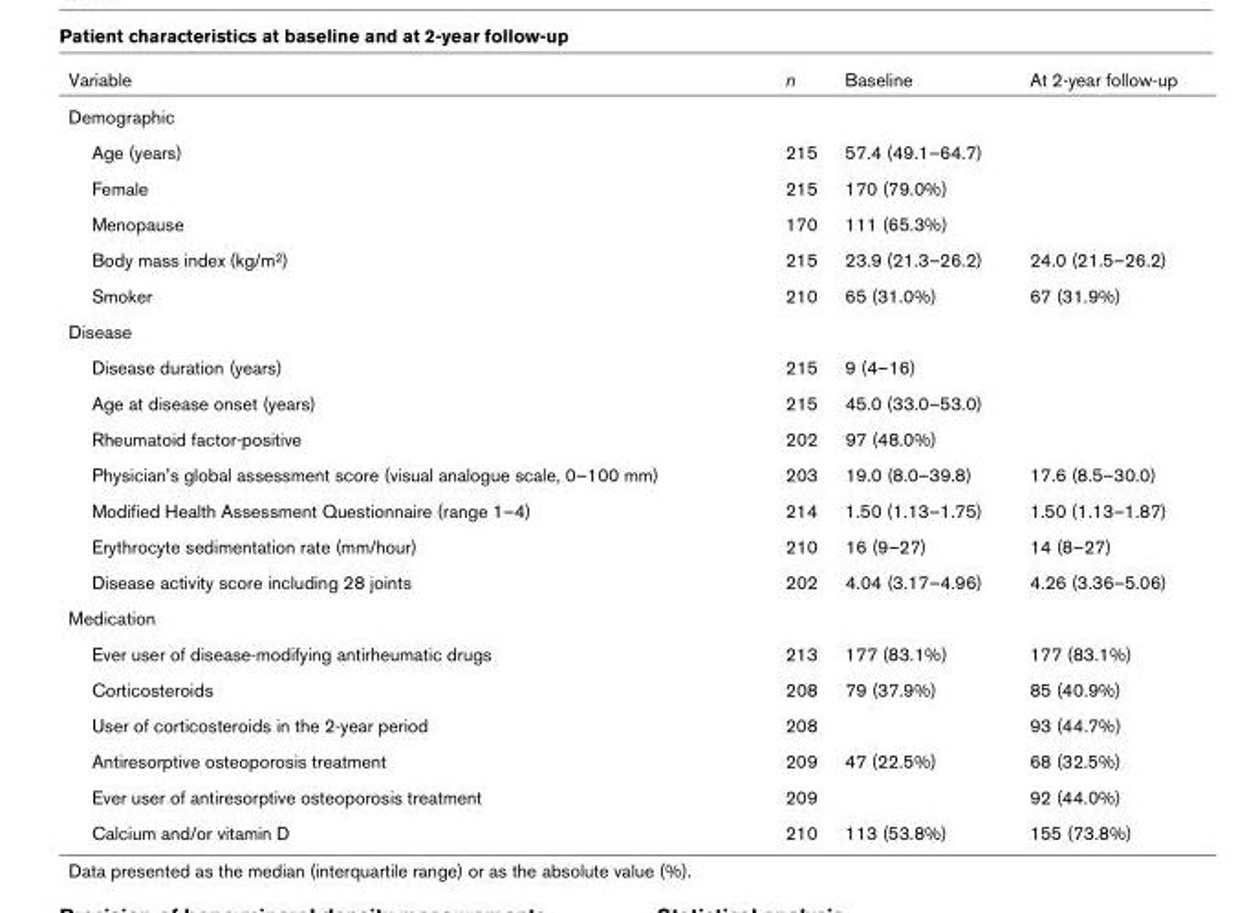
<table><thead><tr><td>Variable</td><td>n</td><td>Baseline</td><td>At 2-year follow-up</td></tr></thead><tbody><tr><td colspan="4">Demographic</td></tr><tr><td>Age (years)</td><td>215</td><td>57.4 (49.1–64.7)</td><td></td></tr><tr><td>Female</td><td>215</td><td>170 (79.0%)</td><td></td></tr><tr><td>Menopause</td><td>170</td><td>111 (65.3%)</td><td></td></tr><tr><td>Body mass index (kg/m<sup>2</sup>)</td><td>215</td><td>23.9 (21.3–26.2)</td><td>24.0 (21.5–26.2)</td></tr><tr><td>Smoker</td><td>210</td><td>65 (31.0%)</td><td>67 (31.9%)</td></tr><tr><td colspan="4">Disease</td></tr><tr><td>Disease duration (years)</td><td>215</td><td>9 (4–16)</td><td></td></tr><tr><td>Age at disease onset (years)</td><td>215</td><td>45.0 (33.0–53.0)</td><td></td></tr><tr><td>Rheumatoid factor-positive</td><td>202</td><td>97 (48.0%)</td><td></td></tr><tr><td>Physician&#x27;s global assessment score (visual analogue scale, 0–100 mm)</td><td>203</td><td>19.0 (8.0–39.8)</td><td>17.6 (8.5–30.0)</td></tr><tr><td>Modified Health Assessment Questionnaire (range 1–4)</td><td>214</td><td>1.50 (1.13–1.75)</td><td>1.50 (1.13–1.87)</td></tr><tr><td>Erythrocyte sedimentation rate (mm/hour)</td><td>210</td><td>16 (9–27)</td><td>14 (8–27)</td></tr><tr><td>Disease activity score including 28 joints</td><td>202</td><td>4.04 (3.17–4.96)</td><td>4.26 (3.36–5.06)</td></tr><tr><td colspan="4">Medication</td></tr><tr><td>Ever user of disease-modifying antirheumatic drugs</td><td>213</td><td>177 (83.1%)</td><td>177 (83.1%)</td></tr><tr><td>Corticosteroids</td><td>208</td><td>79 (37.9%)</td><td>85 (40.9%)</td></tr><tr><td>User of corticosteroids in the 2-year period</td><td>208</td><td></td><td>93 (44.7%)</td></tr><tr><td>Antiresorptive osteoporosis treatment</td><td>209</td><td>47 (22.5%)</td><td>68 (32.5%)</td></tr><tr><td>Ever user of antiresorptive osteoporosis treatment</td><td>209</td><td></td><td>92 (44.0%)</td></tr><tr><td>Calcium and/or vitamin D</td><td>210</td><td>113 (53.8%)</td><td>155 (73.8%)</td></tr></tbody></table>